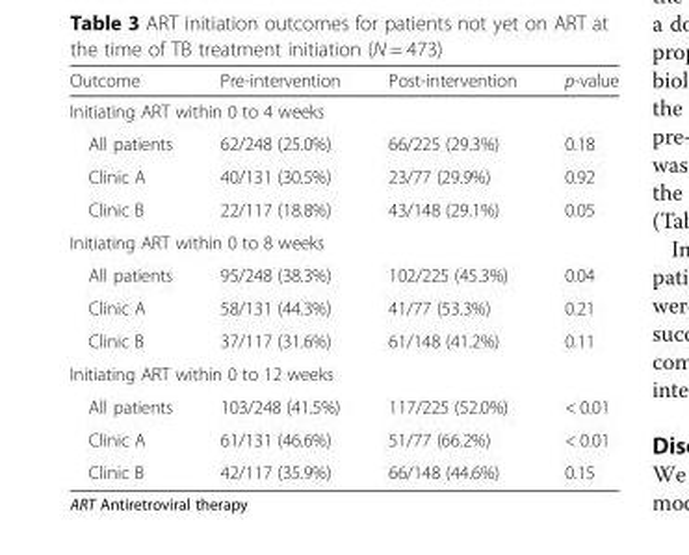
<table><thead><tr><td>Outcome</td><td>Pre-intervention</td><td>Post-intervention</td><td>p-value</td></tr></thead><tbody><tr><td colspan="4">Initiating ART within 0 to 4 weeks</td></tr><tr><td>All patients</td><td>62/248 (25.0%)</td><td>66/225 (29.3%)</td><td>0.18</td></tr><tr><td>Clinic A</td><td>40/131 (30.5%)</td><td>23/77 (29.9%)</td><td>0.92</td></tr><tr><td>Clinic B</td><td>22/117 (18.8%)</td><td>43/148 (29.1%)</td><td>0.05</td></tr><tr><td colspan="4">Initiating ART within 0 to 8 weeks</td></tr><tr><td>All patients</td><td>95/248 (38.3%)</td><td>102/225 (45.3%)</td><td>0.04</td></tr><tr><td>Clinic A</td><td>58/131 (44.3%)</td><td>41/77 (53.3%)</td><td>0.21</td></tr><tr><td>Clinic B</td><td>37/117 (31.6%)</td><td>61/148 (41.2%)</td><td>0.11</td></tr><tr><td colspan="4">Initiating ART within 0 to 12 weeks</td></tr><tr><td>All patients</td><td>103/248 (41.5%)</td><td>117/225 (52.0%)</td><td>&lt; 0.01</td></tr><tr><td>Clinic A</td><td>61/131 (46.6%)</td><td>51/77 (66.2%)</td><td>&lt; 0.01</td></tr><tr><td>Clinic B</td><td>42/117 (35.9%)</td><td>66/148 (44.6%)</td><td>0.15</td></tr></tbody></table>